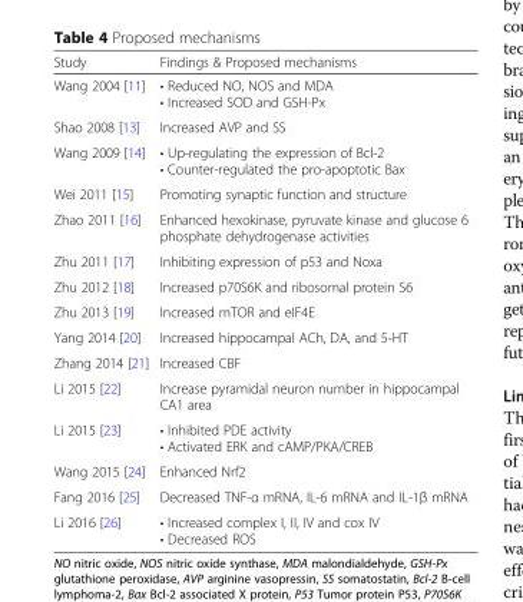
<table><thead><tr><td>Study</td><td>Findings &amp; Proposed mechanisms</td></tr></thead><tbody><tr><td>Wang 2004 [11]</td><td>• Reduced NO, NOS and MDA • Increased SOD and GSH-Px</td></tr><tr><td>Shao 2008 [13]</td><td>Increased AVP and SS</td></tr><tr><td>Wang 2009 [14]</td><td>• Up-regulating the expression of Bcl-2 • Counter-regulated the pro-apoptotic Bax</td></tr><tr><td>Wei 2011 [15]</td><td>Promoting synaptic function and structure</td></tr><tr><td>Zhao 2011 [16]</td><td>Enhanced hexokinase, pyruvate kinase and glucose 6 phosphate dehydrogenase activities</td></tr><tr><td>Zhu 2011 [17]</td><td>Inhibiting expression of p53 and Noxa</td></tr><tr><td>Zhu 2012 [18]</td><td>Increased p70S6K and ribosomal protein S6</td></tr><tr><td>Zhu 2013 [19]</td><td>Increased mTOR and eIF4E</td></tr><tr><td>Yang 2014 [20]</td><td>Increased hippocampal ACh, DA, and 5-HT</td></tr><tr><td>Zhang 2014 [21]</td><td>Increased CBF</td></tr><tr><td>Li 2015 [22]</td><td>Increase pyramidal neuron number in hippocampal CA1 area</td></tr><tr><td>Li 2015 [23]</td><td>• Inhibited PDE activity • Activated ERK and cAMP/PKA/CREB</td></tr><tr><td>Wang 2015 [24]</td><td>Enhanced Nrf2</td></tr><tr><td>Fang 2016 [25]</td><td>Decreased TNF-α mRNA, IL-6 mRNA and IL-1β mRNA</td></tr><tr><td>Li 2016 [26]</td><td>• Increased complex I, II, IV and cox IV • Decreased ROS</td></tr></tbody></table>